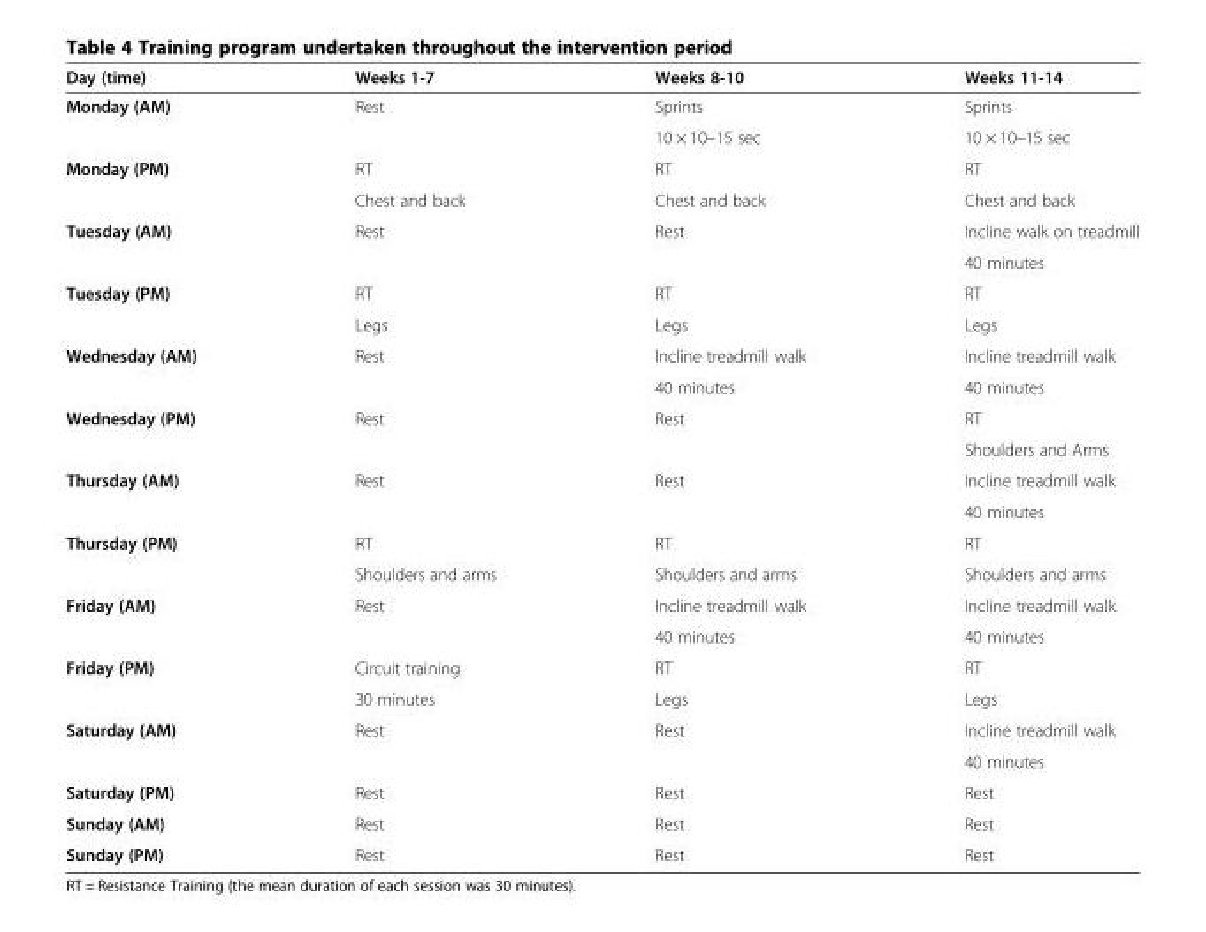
<table><thead><tr><td>Day (time)</td><td>Weeks 1-7</td><td>Weeks 8-10</td><td>Weeks 11-14</td></tr></thead><tbody><tr><td rowspan="2">Monday (AM)</td><td rowspan="2">Rest</td><td>Sprints</td><td>Sprints</td></tr><tr><td>10 × 10–15 sec</td><td>10 × 10–15 sec</td></tr><tr><td rowspan="2">Monday (PM)</td><td>RT</td><td>RT</td><td>RT</td></tr><tr><td>Chest and back</td><td>Chest and back</td><td>Chest and back</td></tr><tr><td rowspan="2">Tuesday (AM)</td><td rowspan="2">Rest</td><td rowspan="2">Rest</td><td>Incline walk on treadmill</td></tr><tr><td>40 minutes</td></tr><tr><td rowspan="2">Tuesday (PM)</td><td>RT</td><td>RT</td><td>RT</td></tr><tr><td>Legs</td><td>Legs</td><td>Legs</td></tr><tr><td rowspan="2">Wednesday (AM)</td><td rowspan="2">Rest</td><td>Incline treadmill walk</td><td>Incline treadmill walk</td></tr><tr><td>40 minutes</td><td>40 minutes</td></tr><tr><td rowspan="2">Wednesday (PM)</td><td rowspan="2">Rest</td><td rowspan="2">Rest</td><td>RT</td></tr><tr><td>Shoulders and Arms</td></tr><tr><td rowspan="2">Thursday (AM)</td><td rowspan="2">Rest</td><td rowspan="2">Rest</td><td>Incline treadmill walk</td></tr><tr><td>40 minutes</td></tr><tr><td rowspan="2">Thursday (PM)</td><td>RT</td><td>RT</td><td>RT</td></tr><tr><td>Shoulders and arms</td><td>Shoulders and arms</td><td>Shoulders and arms</td></tr><tr><td rowspan="2">Friday (AM)</td><td rowspan="2">Rest</td><td>Incline treadmill walk</td><td>Incline treadmill walk</td></tr><tr><td>40 minutes</td><td>40 minutes</td></tr><tr><td rowspan="2">Friday (PM)</td><td>Circuit training</td><td>RT</td><td>RT</td></tr><tr><td>30 minutes</td><td>Legs</td><td>Legs</td></tr><tr><td rowspan="2">Saturday (AM)</td><td rowspan="2">Rest</td><td rowspan="2">Rest</td><td>Incline treadmill walk</td></tr><tr><td>40 minutes</td></tr><tr><td>Saturday (PM)</td><td>Rest</td><td>Rest</td><td>Rest</td></tr><tr><td>Sunday (AM)</td><td>Rest</td><td>Rest</td><td>Rest</td></tr><tr><td>Sunday (PM)</td><td>Rest</td><td>Rest</td><td>Rest</td></tr></tbody></table>